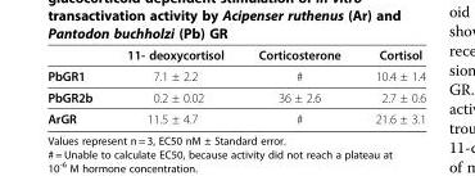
<table><thead><tr><td></td><td>11- deoxycortisol</td><td>Corticosterone</td><td>Cortisol</td></tr></thead><tbody><tr><td>PbGR1</td><td>7.1 ± 2.2</td><td>#</td><td>10.4 ± 1.4</td></tr><tr><td>PbGR2b</td><td>0.2 ± 0.02</td><td>36 ± 2.6</td><td>2.7 ± 0.6</td></tr><tr><td>ArGR</td><td>11.5 ± 4.7</td><td>#</td><td>21.6 ± 3.1</td></tr></tbody></table>